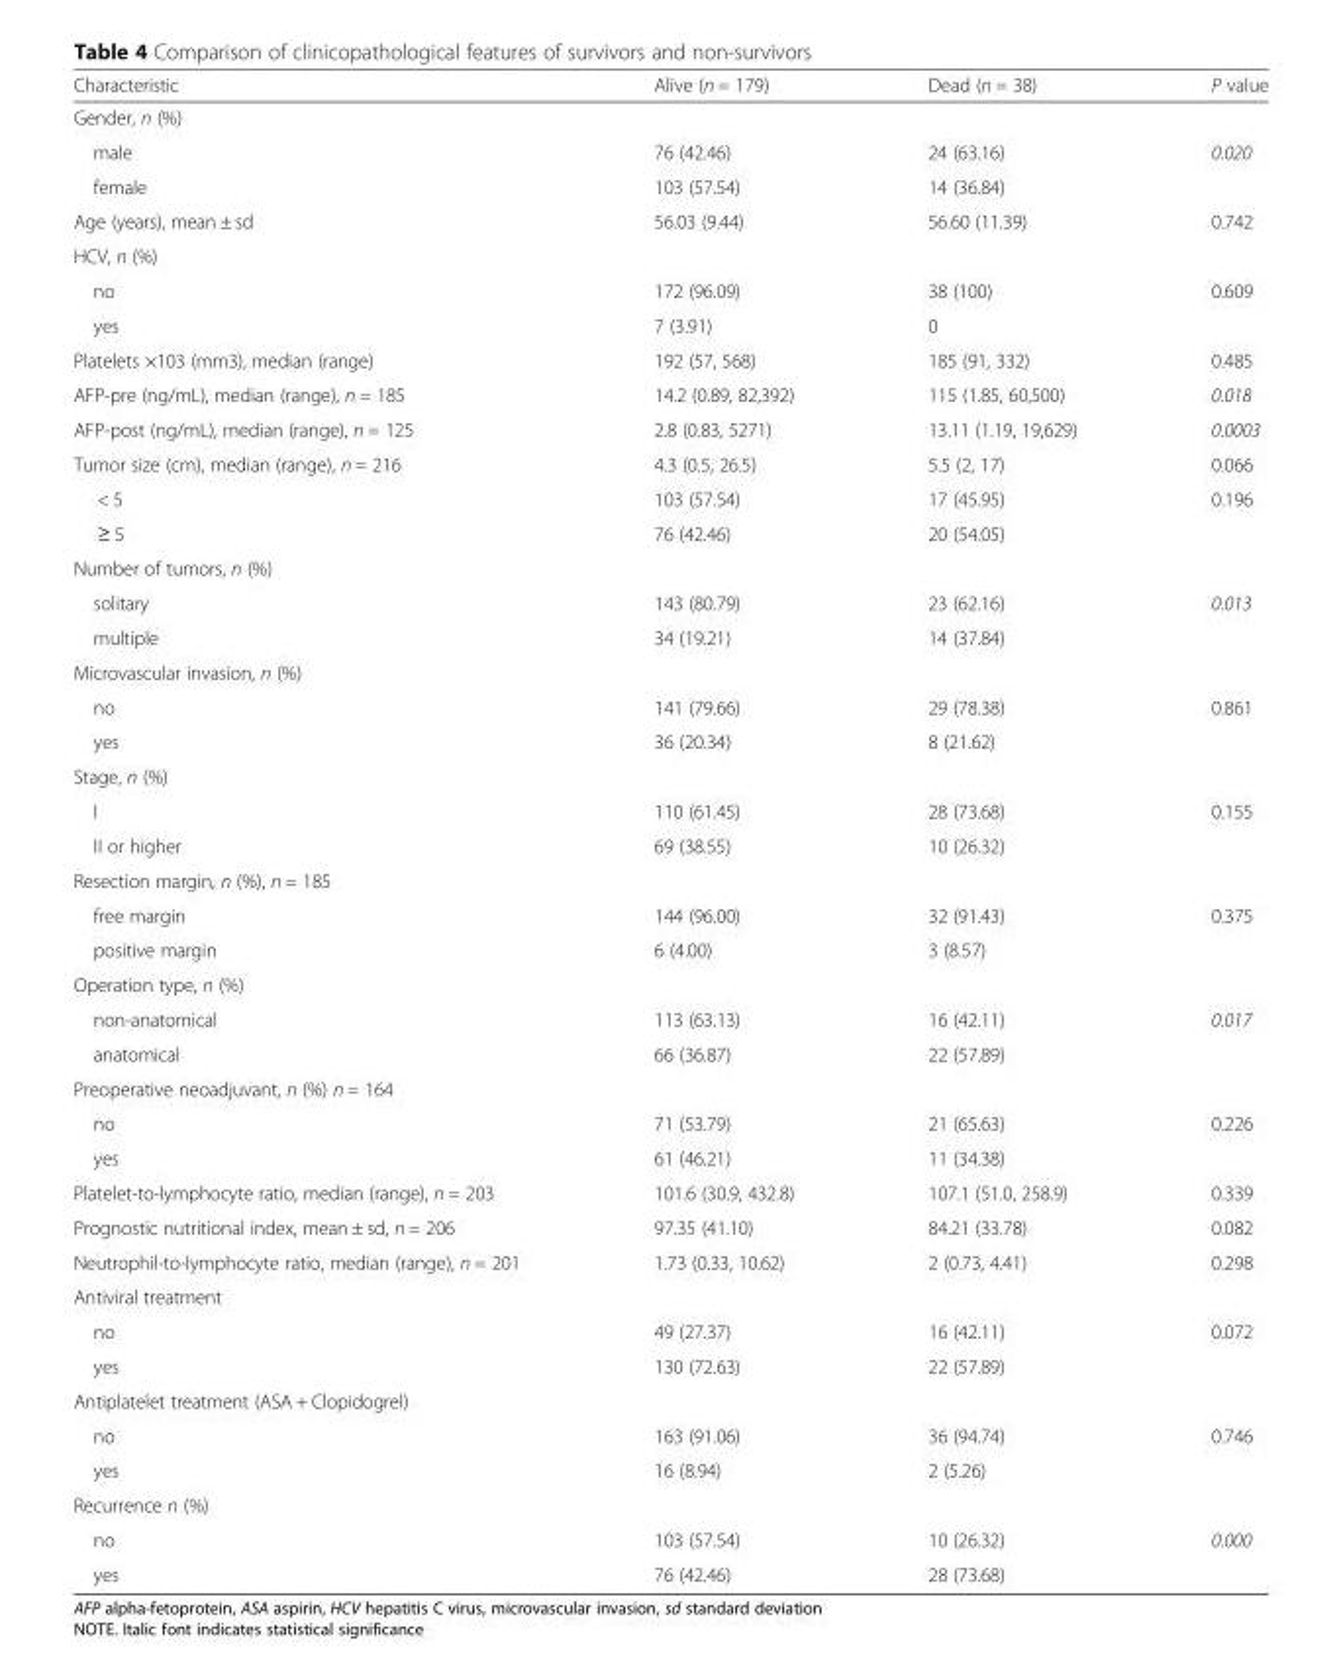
<table><thead><tr><td>Characteristic</td><td>Alive (n = 179)</td><td>Dead (n = 38)</td><td>P value</td></tr></thead><tbody><tr><td colspan="4">Gender, n (%)</td></tr><tr><td>male</td><td>76 (42.46)</td><td>24 (63.16)</td><td>0.020</td></tr><tr><td>female</td><td>103 (57.54)</td><td>14 (36.84)</td><td></td></tr><tr><td>Age (years), mean ± sd</td><td>56.03 (9.44)</td><td>56.60 (11.39)</td><td>0.742</td></tr><tr><td colspan="4">HCV, n (%)</td></tr><tr><td>no</td><td>172 (96.09)</td><td>38 (100)</td><td>0.609</td></tr><tr><td>yes</td><td>7 (3.91)</td><td>0</td><td></td></tr><tr><td>Platelets ×103 (mm3), median (range)</td><td>192 (57, 568)</td><td>185 (91, 332)</td><td>0.485</td></tr><tr><td>AFP-pre (ng/mL), median (range), n = 185</td><td>14.2 (0.89, 82,392)</td><td>115 (1.85, 60,500)</td><td>0.018</td></tr><tr><td>AFP-post (ng/mL), median (range), n = 125</td><td>2.8 (0.83, 5271)</td><td>13.11 (1.19, 19,629)</td><td>0.0003</td></tr><tr><td>Tumor size (cm), median (range), n = 216</td><td>4.3 (0.5, 26.5)</td><td>5.5 (2, 17)</td><td>0.066</td></tr><tr><td>&lt; 5</td><td>103 (57.54)</td><td>17 (45.95)</td><td>0.196</td></tr><tr><td>≥ 5</td><td>76 (42.46)</td><td>20 (54.05)</td><td></td></tr><tr><td colspan="4">Number of tumors, n (%)</td></tr><tr><td>solitary</td><td>143 (80.79)</td><td>23 (62.16)</td><td>0.013</td></tr><tr><td>multiple</td><td>34 (19.21)</td><td>14 (37.84)</td><td></td></tr><tr><td colspan="4">Microvascular invasion, n (%)</td></tr><tr><td>no</td><td>141 (79.66)</td><td>29 (78.38)</td><td>0.861</td></tr><tr><td>yes</td><td>36 (20.34)</td><td>8 (21.62)</td><td></td></tr><tr><td colspan="4">Stage, n (%)</td></tr><tr><td>I</td><td>110 (61.45)</td><td>28 (73.68)</td><td>0.155</td></tr><tr><td>II or higher</td><td>69 (38.55)</td><td>10 (26.32)</td><td></td></tr><tr><td colspan="4">Resection margin, n (%), n = 185</td></tr><tr><td>free margin</td><td>144 (96.00)</td><td>32 (91.43)</td><td>0.375</td></tr><tr><td>positive margin</td><td>6 (4.00)</td><td>3 (8.57)</td><td></td></tr><tr><td colspan="4">Operation type, n (%)</td></tr><tr><td>non-anatomical</td><td>113 (63.13)</td><td>16 (42.11)</td><td>0.017</td></tr><tr><td>anatomical</td><td>66 (36.87)</td><td>22 (57.89)</td><td></td></tr><tr><td colspan="4">Preoperative neoadjuvant, n (%) n = 164</td></tr><tr><td>no</td><td>71 (53.79)</td><td>21 (65.63)</td><td>0.226</td></tr><tr><td>yes</td><td>61 (46.21)</td><td>11 (34.38)</td><td></td></tr><tr><td>Platelet-to-lymphocyte ratio, median (range), n = 203</td><td>101.6 (30.9, 432.8)</td><td>107.1 (51.0, 258.9)</td><td>0.339</td></tr><tr><td>Prognostic nutritional index, mean ± sd, n = 206</td><td>97.35 (41.10)</td><td>84.21 (33.78)</td><td>0.082</td></tr><tr><td>Neutrophil-to-lymphocyte ratio, median (range), n = 201</td><td>1.73 (0.33, 10.62)</td><td>2 (0.73, 4.41)</td><td>0.298</td></tr><tr><td colspan="4">Antiviral treatment</td></tr><tr><td>no</td><td>49 (27.37)</td><td>16 (42.11)</td><td>0.072</td></tr><tr><td>yes</td><td>130 (72.63)</td><td>22 (57.89)</td><td></td></tr><tr><td colspan="4">Antiplatelet treatment (ASA + Clopidogrel)</td></tr><tr><td>no</td><td>163 (91.06)</td><td>36 (94.74)</td><td>0.746</td></tr><tr><td>yes</td><td>16 (8.94)</td><td>2 (5.26)</td><td></td></tr><tr><td colspan="4">Recurrence n (%)</td></tr><tr><td>no</td><td>103 (57.54)</td><td>10 (26.32)</td><td>0.000</td></tr><tr><td>yes</td><td>76 (42.46)</td><td>28 (73.68)</td><td></td></tr></tbody></table>